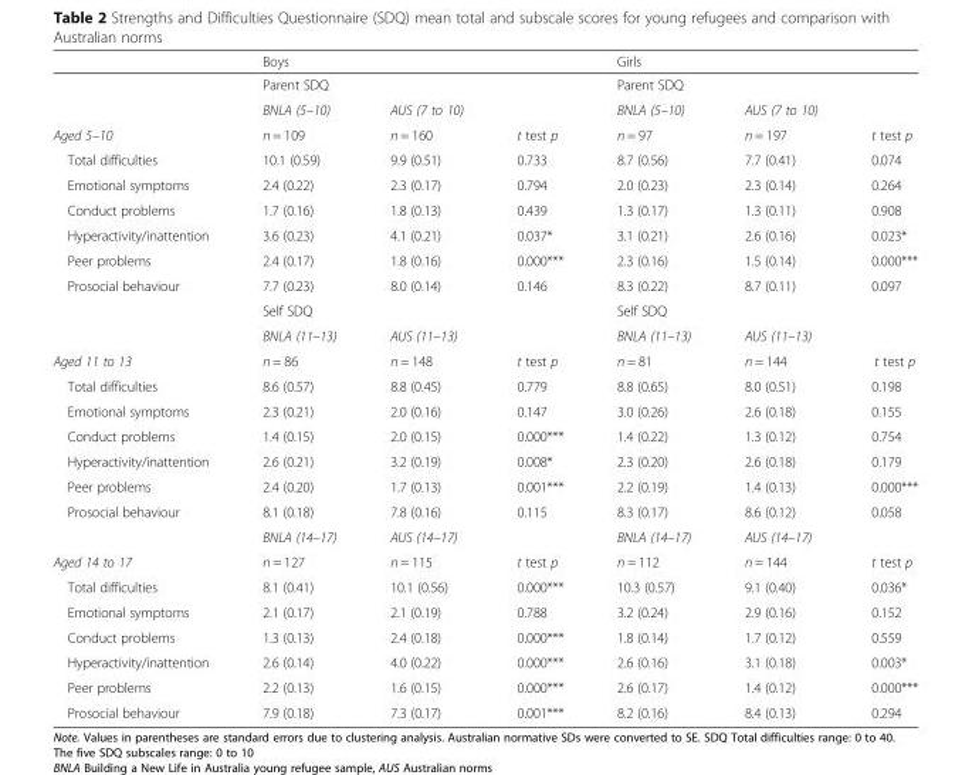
<table><thead><tr><td rowspan="3"></td><td rowspan="2" colspan="3">Boys Parent SDQ</td><td rowspan="2" colspan="3">Girls Parent SDQ</td></tr><tr></tr><tr><td>BNLA (5–10)</td><td>AUS (7 to 10)</td><td></td><td>BNLA (5–10)</td><td>AUS (7 to 10)</td><td></td></tr></thead><tbody><tr><td>Aged 5–10</td><td>n = 109</td><td>n = 160</td><td>t test p</td><td>n = 97</td><td>n = 197</td><td>t test p</td></tr><tr><td>Total difficulties</td><td>10.1 (0.59)</td><td>9.9 (0.51)</td><td>0.733</td><td>8.7 (0.56)</td><td>7.7 (0.41)</td><td>0.074</td></tr><tr><td>Emotional symptoms</td><td>2.4 (0.22)</td><td>2.3 (0.17)</td><td>0.794</td><td>2.0 (0.23)</td><td>2.3 (0.14)</td><td>0.264</td></tr><tr><td>Conduct problems</td><td>1.7 (0.16)</td><td>1.8 (0.13)</td><td>0.439</td><td>1.3 (0.17)</td><td>1.3 (0.11)</td><td>0.908</td></tr><tr><td>Hyperactivity/inattention</td><td>3.6 (0.23)</td><td>4.1 (0.21)</td><td>0.037*</td><td>3.1 (0.21)</td><td>2.6 (0.16)</td><td>0.023*</td></tr><tr><td>Peer problems</td><td>2.4 (0.17)</td><td>1.8 (0.16)</td><td>0.000***</td><td>2.3 (0.16)</td><td>1.5 (0.14)</td><td>0.000***</td></tr><tr><td rowspan="3">Prosocial behaviour</td><td>7.7 (0.23)</td><td>8.0 (0.14)</td><td>0.146</td><td>8.3 (0.22)</td><td>8.7 (0.11)</td><td>0.097</td></tr><tr><td colspan="3">Self SDQ</td><td colspan="3">Self SDQ</td></tr><tr><td>BNLA (11–13)</td><td>AUS (11–13)</td><td></td><td>BNLA (11–13)</td><td>AUS (11–13)</td><td></td></tr><tr><td>Aged 11 to 13</td><td>n = 86</td><td>n = 148</td><td>t test p</td><td>n = 81</td><td>n = 144</td><td>t test p</td></tr><tr><td>Total difficulties</td><td>8.6 (0.57)</td><td>8.8 (0.45)</td><td>0.779</td><td>8.8 (0.65)</td><td>8.0 (0.51)</td><td>0.198</td></tr><tr><td>Emotional symptoms</td><td>2.3 (0.21)</td><td>2.0 (0.16)</td><td>0.147</td><td>3.0 (0.26)</td><td>2.6 (0.18)</td><td>0.155</td></tr><tr><td>Conduct problems</td><td>1.4 (0.15)</td><td>2.0 (0.15)</td><td>0.000***</td><td>1.4 (0.22)</td><td>1.3 (0.12)</td><td>0.754</td></tr><tr><td>Hyperactivity/inattention</td><td>2.6 (0.21)</td><td>3.2 (0.19)</td><td>0.008*</td><td>2.3 (0.20)</td><td>2.6 (0.18)</td><td>0.179</td></tr><tr><td>Peer problems</td><td>2.4 (0.20)</td><td>1.7 (0.13)</td><td>0.001***</td><td>2.2 (0.19)</td><td>1.4 (0.13)</td><td>0.000***</td></tr><tr><td rowspan="2">Prosocial behaviour</td><td>8.1 (0.18)</td><td>7.8 (0.16)</td><td>0.115</td><td>8.3 (0.17)</td><td>8.6 (0.12)</td><td>0.058</td></tr><tr><td>BNLA (14–17)</td><td>AUS (14–17)</td><td></td><td>BNLA (14–17)</td><td>AUS (14–17)</td><td></td></tr><tr><td>Aged 14 to 17</td><td>n = 127</td><td>n = 115</td><td>t test p</td><td>n = 112</td><td>n = 144</td><td>t test p</td></tr><tr><td>Total difficulties</td><td>8.1 (0.41)</td><td>10.1 (0.56)</td><td>0.000***</td><td>10.3 (0.57)</td><td>9.1 (0.40)</td><td>0.036*</td></tr><tr><td>Emotional symptoms</td><td>2.1 (0.17)</td><td>2.1 (0.19)</td><td>0.788</td><td>3.2 (0.24)</td><td>2.9 (0.16)</td><td>0.152</td></tr><tr><td>Conduct problems</td><td>1.3 (0.13)</td><td>2.4 (0.18)</td><td>0.000***</td><td>1.8 (0.14)</td><td>1.7 (0.12)</td><td>0.559</td></tr><tr><td>Hyperactivity/inattention</td><td>2.6 (0.14)</td><td>4.0 (0.22)</td><td>0.000***</td><td>2.6 (0.16)</td><td>3.1 (0.18)</td><td>0.003*</td></tr><tr><td>Peer problems</td><td>2.2 (0.13)</td><td>1.6 (0.15)</td><td>0.000***</td><td>2.6 (0.17)</td><td>1.4 (0.12)</td><td>0.000***</td></tr><tr><td>Prosocial behaviour</td><td>7.9 (0.18)</td><td>7.3 (0.17)</td><td>0.001***</td><td>8.2 (0.16)</td><td>8.4 (0.13)</td><td>0.294</td></tr></tbody></table>